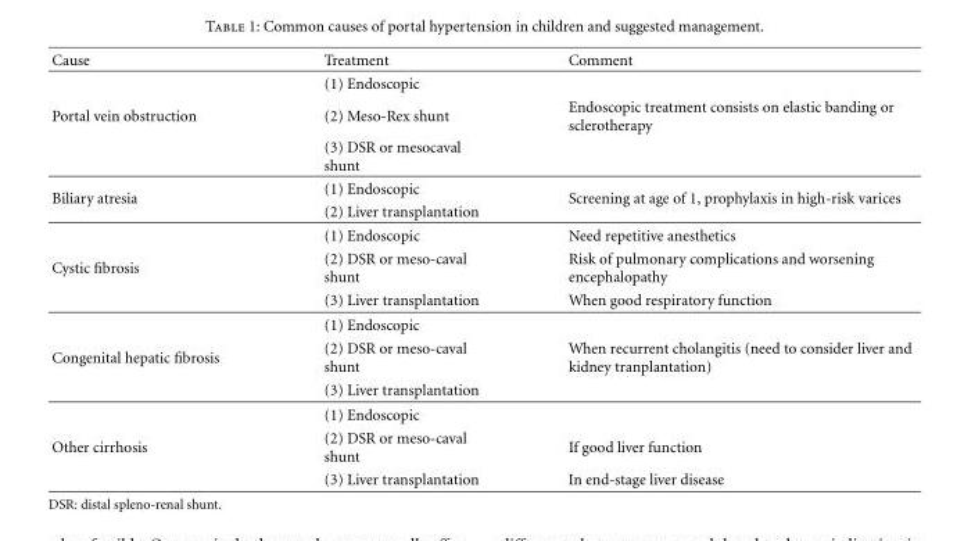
<table><thead><tr><td>Cause</td><td>Treatment</td><td>Comment</td></tr></thead><tbody><tr><td></td><td>(1) Endoscopic</td><td></td></tr><tr><td rowspan="2">Portal vein obstruction</td><td>(2) Meso-Rex shunt</td><td>Endoscopic treatment consists on elastic banding or sclerotherapy</td></tr><tr><td>(3) DSR or mesocaval shunt</td><td></td></tr><tr><td rowspan="3">Biliary atresia</td><td>(1) Endoscopic</td><td rowspan="2">Screening at age of 1, prophylaxis in high-risk varices</td></tr><tr><td>(2) Liver transplantation</td></tr><tr><td>(1) Endoscopic</td><td>Need repetitive anesthetics</td></tr><tr><td rowspan="3">Cystic fibrosis</td><td>(2) DSR or meso-caval shunt</td><td>Risk of pulmonary complications and worsening encephalopathy</td></tr><tr><td>(3) Liver transplantation</td><td>When good respiratory function</td></tr><tr><td>(1) Endoscopic</td><td></td></tr><tr><td rowspan="3">Congenital hepatic fibrosis</td><td>(2) DSR or meso-caval shunt</td><td>When recurrent cholangitis (need to consider liver and kidney tranplantation)</td></tr><tr><td>(3) Liver transplantation</td><td></td></tr><tr><td>(1) Endoscopic</td><td></td></tr><tr><td rowspan="2">Other cirrhosis</td><td>(2) DSR or meso-caval shunt</td><td>If good liver function</td></tr><tr><td>(3) Liver transplantation</td><td>In end-stage liver disease</td></tr></tbody></table>